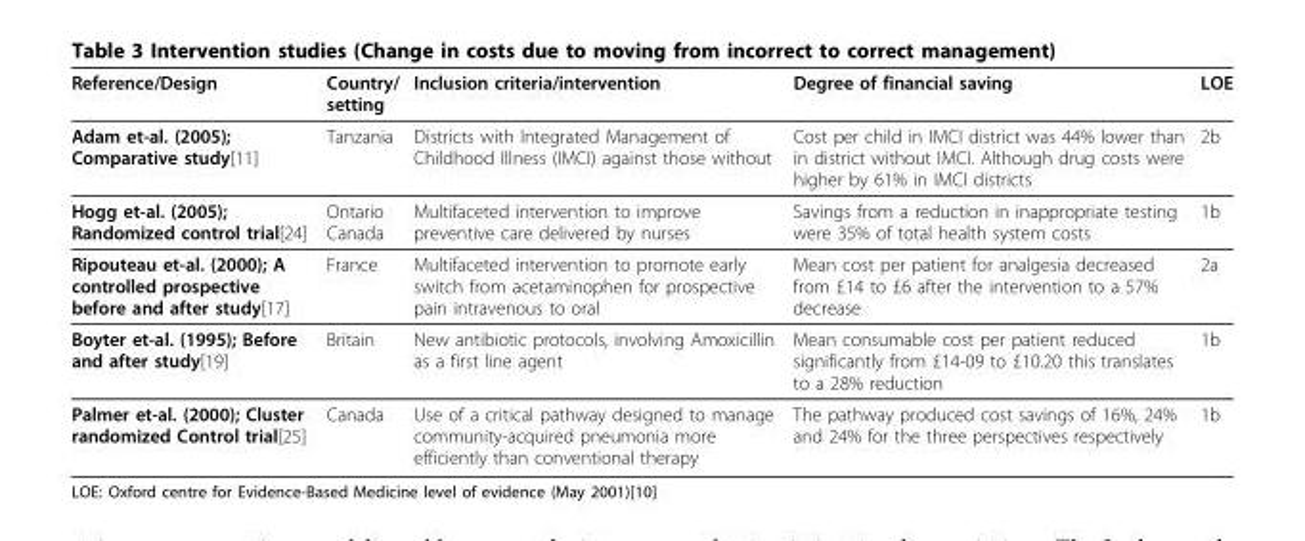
<table><thead><tr><td>Reference/Design</td><td>Country/ setting</td><td>Inclusion criteria/intervention</td><td>Degree of financial saving</td><td>LOE</td></tr></thead><tbody><tr><td>Adam et-al. (2005); Comparative study[11]</td><td>Tanzania</td><td>Districts with Integrated Management of Childhood Illness (IMCI) against those without</td><td>Cost per child in IMCI district was 44% lower than in district without IMCI. Although drug costs were higher by 61% in IMCI districts</td><td>2b</td></tr><tr><td>Hogg et-al. (2005); Randomized control trial[24]</td><td>Ontario Canada</td><td>Multifaceted intervention to improve preventive care delivered by nurses</td><td>Savings from a reduction in inappropriate testing were 35% of total health system costs</td><td>1b</td></tr><tr><td>Ripouteau et-al. (2000); A controlled prospective before and after study[17]</td><td>France</td><td>Multifaceted intervention to promote early switch from acetaminophen for prospective pain intravenous to oral</td><td>Mean cost per patient for analgesia decreased from £14 to £6 after the intervention to a 57% decrease</td><td>2a</td></tr><tr><td>Boyter et-al. (1995); Before and after study[19]</td><td>Britain</td><td>New antibiotic protocols, involving Amoxicillin as a first line agent</td><td>Mean consumable cost per patient reduced significantly from £14-09 to £10.20 this translates to a 28% reduction</td><td>1b</td></tr><tr><td>Palmer et-al. (2000); Cluster randomized Control trial[25]</td><td>Canada</td><td>Use of a critical pathway designed to manage community-acquired pneumonia more efficiently than conventional therapy</td><td>The pathway produced cost savings of 16%, 24% and 24% for the three perspectives respectively</td><td>1b</td></tr></tbody></table>